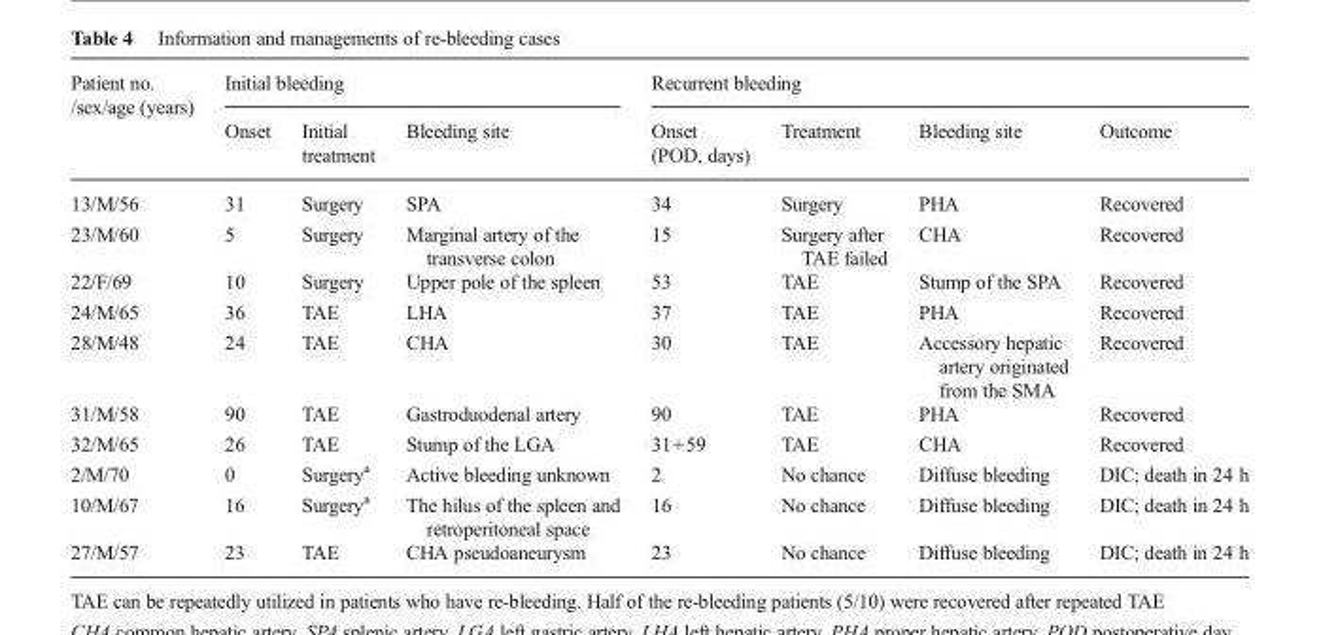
<table><thead><tr><td rowspan="2">Patient no. /sex/age (years)</td><td colspan="3">Initial bleeding</td><td colspan="4">Recurrent bleeding</td></tr><tr><td>Onset</td><td>Initial treatment</td><td>Bleeding site</td><td>Onset (POD, days)</td><td>Treatment</td><td>Bleeding site</td><td>Outcome</td></tr></thead><tbody><tr><td>13/M/56</td><td>31</td><td>Surgery</td><td>SPA</td><td>34</td><td>Surgery</td><td>PHA</td><td>Recovered</td></tr><tr><td>23/M/60</td><td>5</td><td>Surgery</td><td>Marginal artery of the transverse colon</td><td>15</td><td>Surgery after TAE failed</td><td>CHA</td><td>Recovered</td></tr><tr><td>22/F/69</td><td>10</td><td>Surgery</td><td>Upper pole of the spleen</td><td>53</td><td>TAE</td><td>Stump of the SPA</td><td>Recovered</td></tr><tr><td>24/M/65</td><td>36</td><td>TAE</td><td>LHA</td><td>37</td><td>TAE</td><td>PHA</td><td>Recovered</td></tr><tr><td>28/M/48</td><td>24</td><td>TAE</td><td>CHA</td><td>30</td><td>TAE</td><td>Accessory hepatic artery originated from the SMA</td><td>Recovered</td></tr><tr><td>31/M/58</td><td>90</td><td>TAE</td><td>Gastroduodenal artery</td><td>90</td><td>TAE</td><td>PHA</td><td>Recovered</td></tr><tr><td>32/M/65</td><td>26</td><td>TAE</td><td>Stump of the LGA</td><td>31+59</td><td>TAE</td><td>CHA</td><td>Recovered</td></tr><tr><td>2/M/70</td><td>0</td><td>Surgery<sup>a</sup></td><td>Active bleeding unknown</td><td>2</td><td>No chance</td><td>Diffuse bleeding</td><td>DIC; death in 24 h</td></tr><tr><td>10/M/67</td><td>16</td><td>Surgery<sup>a</sup></td><td>The hilus of the spleen and retroperitoneal space</td><td>16</td><td>No chance</td><td>Diffuse bleeding</td><td>DIC; death in 24 h</td></tr><tr><td>27/M/57</td><td>23</td><td>TAE</td><td>CHA pseudoaneurysm</td><td>23</td><td>No chance</td><td>Diffuse bleeding</td><td>DIC; death in 24 h</td></tr></tbody></table>